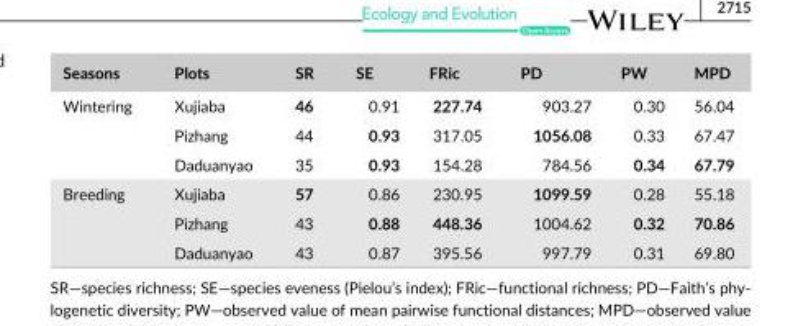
<table><thead><tr><td>Seasons</td><td>Plots</td><td>SR</td><td>SE</td><td>FRic</td><td>PD</td><td>PW</td><td>MPD</td></tr></thead><tbody><tr><td rowspan="3">Wintering</td><td>Xujiaba</td><td>46</td><td>0.91</td><td>227.74</td><td>903.27</td><td>0.30</td><td>56.04</td></tr><tr><td>Pizhang</td><td>44</td><td>0.93</td><td>317.05</td><td>1056.08</td><td>0.33</td><td>67.47</td></tr><tr><td>Daduanyao</td><td>35</td><td>0.93</td><td>154.28</td><td>784.56</td><td>0.34</td><td>67.79</td></tr><tr><td rowspan="3">Breeding</td><td>Xujiaba</td><td>57</td><td>0.86</td><td>230.95</td><td>1099.59</td><td>0.28</td><td>55.18</td></tr><tr><td>Pizhang</td><td>43</td><td>0.88</td><td>448.36</td><td>1004.62</td><td>0.32</td><td>70.86</td></tr><tr><td>Daduanyao</td><td>43</td><td>0.87</td><td>395.56</td><td>997.79</td><td>0.31</td><td>69.80</td></tr></tbody></table>